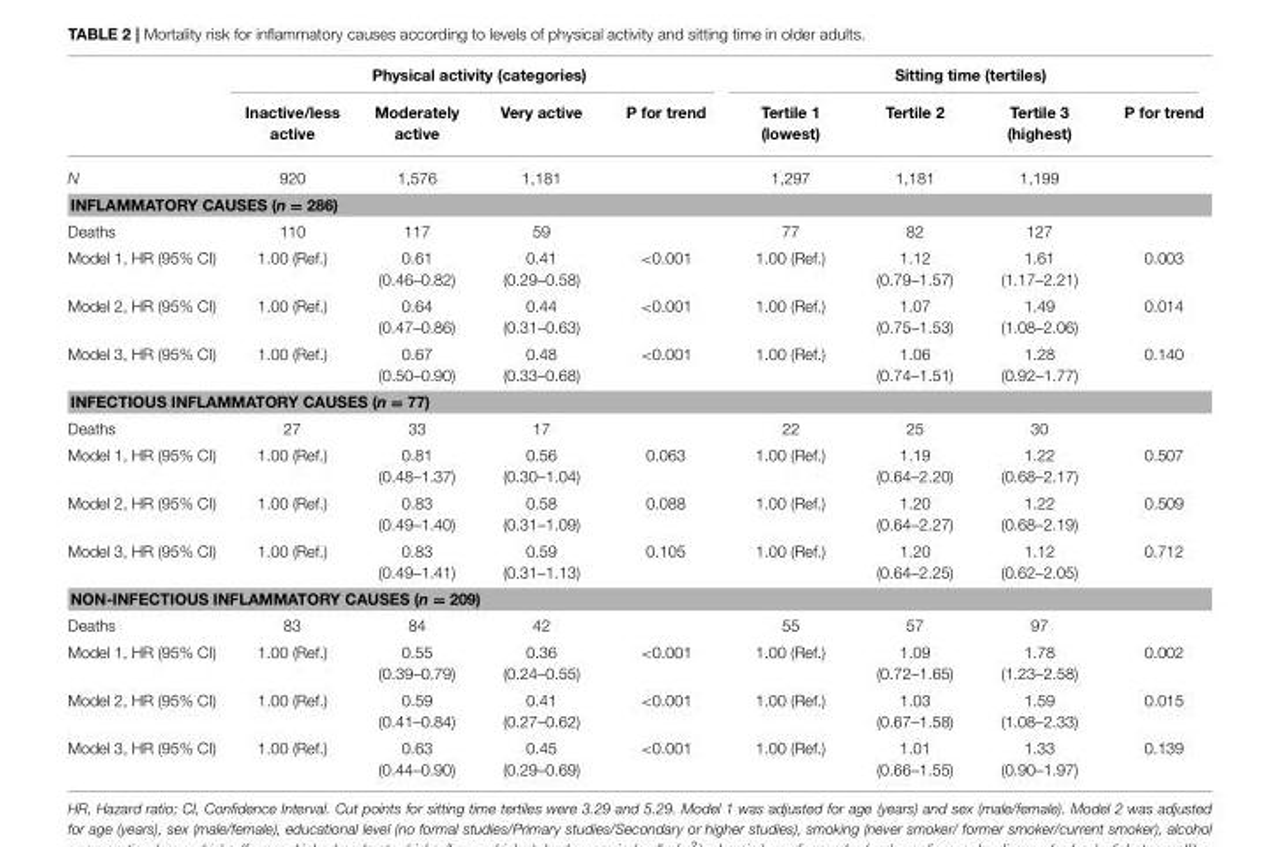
<table><thead><tr><td rowspan="2"></td><td colspan="4">Physical activity (categories)</td><td colspan="4">Sitting time (tertiles)</td></tr><tr><td>Inactive/less active</td><td>Moderately active</td><td>Very active</td><td>P for trend</td><td>Tertile 1 (lowest)</td><td>Tertile 2</td><td>Tertile 3 (highest)</td><td>P for trend</td></tr></thead><tbody><tr><td>N</td><td>920</td><td>1,576</td><td>1,181</td><td></td><td>1,297</td><td>1,181</td><td>1,199</td><td></td></tr><tr><td colspan="9">INFLAMMATORY CAUSES (n = 286)</td></tr><tr><td>Deaths</td><td>110</td><td>117</td><td>59</td><td></td><td>77</td><td>82</td><td>127</td><td></td></tr><tr><td>Model 1, HR (95% CI)</td><td>1.00 (Ref.)</td><td>0.61 (0.46–0.82)</td><td>0.41 (0.29–0.58)</td><td>&lt;0.001</td><td>1.00 (Ref.)</td><td>1.12 (0.79–1.57)</td><td>1.61 (1.17–2.21)</td><td>0.003</td></tr><tr><td>Model 2, HR (95% CI)</td><td>1.00 (Ref.)</td><td>0.64 (0.47–0.86)</td><td>0.44 (0.31–0.63)</td><td>&lt;0.001</td><td>1.00 (Ref.)</td><td>1.07 (0.75–1.53)</td><td>1.49 (1.08–2.06)</td><td>0.014</td></tr><tr><td>Model 3, HR (95% CI)</td><td>1.00 (Ref.)</td><td>0.67 (0.50–0.90)</td><td>0.48 (0.33–0.68)</td><td>&lt;0.001</td><td>1.00 (Ref.)</td><td>1.06 (0.74–1.51)</td><td>1.28 (0.92–1.77)</td><td>0.140</td></tr><tr><td colspan="9">INFECTIOUS INFLAMMATORY CAUSES (n = 77)</td></tr><tr><td>Deaths</td><td>27</td><td>33</td><td>17</td><td></td><td>22</td><td>25</td><td>30</td><td></td></tr><tr><td>Model 1, HR (95% CI)</td><td>1.00 (Ref.)</td><td>0.81 (0.48–1.37)</td><td>0.56 (0.30–1.04)</td><td>0.063</td><td>1.00 (Ref.)</td><td>1.19 (0.64–2.20)</td><td>1.22 (0.68–2.17)</td><td>0.507</td></tr><tr><td>Model 2, HR (95% CI)</td><td>1.00 (Ref.)</td><td>0.83 (0.49–1.40)</td><td>0.58 (0.31–1.09)</td><td>0.088</td><td>1.00 (Ref.)</td><td>1.20 (0.64–2.27)</td><td>1.22 (0.68–2.19)</td><td>0.509</td></tr><tr><td>Model 3, HR (95% CI)</td><td>1.00 (Ref.)</td><td>0.83 (0.49–1.41)</td><td>0.59 (0.31–1.13)</td><td>0.105</td><td>1.00 (Ref.)</td><td>1.20 (0.64–2.25)</td><td>1.12 (0.62–2.05)</td><td>0.712</td></tr><tr><td colspan="9">NON-INFECTIOUS INFLAMMATORY CAUSES (n = 209)</td></tr><tr><td>Deaths</td><td>83</td><td>84</td><td>42</td><td></td><td>55</td><td>57</td><td>97</td><td></td></tr><tr><td>Model 1, HR (95% CI)</td><td>1.00 (Ref.)</td><td>0.55 (0.39–0.79)</td><td>0.36 (0.24–0.55)</td><td>&lt;0.001</td><td>1.00 (Ref.)</td><td>1.09 (0.72–1.65)</td><td>1.78 (1.23–2.58)</td><td>0.002</td></tr><tr><td>Model 2, HR (95% CI)</td><td>1.00 (Ref.)</td><td>0.59 (0.41–0.84)</td><td>0.41 (0.27–0.62)</td><td>&lt;0.001</td><td>1.00 (Ref.)</td><td>1.03 (0.67–1.58)</td><td>1.59 (1.08–2.33)</td><td>0.015</td></tr><tr><td>Model 3, HR (95% CI)</td><td>1.00 (Ref.)</td><td>0.63 (0.44–0.90)</td><td>0.45 (0.29–0.69)</td><td>&lt;0.001</td><td>1.00 (Ref.)</td><td>1.01 (0.66–1.55)</td><td>1.33 (0.90–1.97)</td><td>0.139</td></tr></tbody></table>